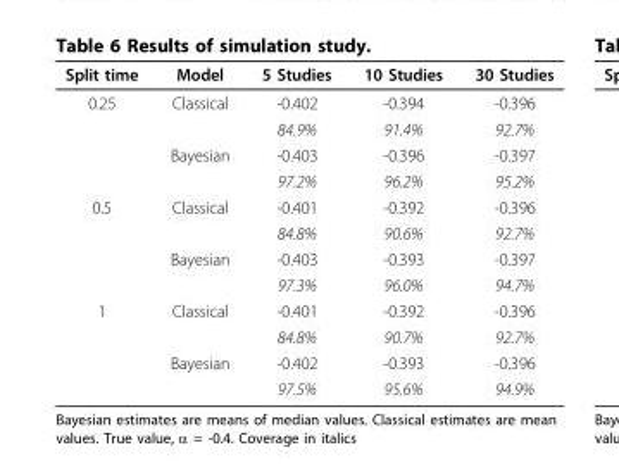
<table><thead><tr><td>Split time</td><td>Model</td><td>5 Studies</td><td>10 Studies</td><td>30 Studies</td></tr></thead><tbody><tr><td rowspan="4">0.25</td><td>Classical</td><td>-0.402</td><td>-0.394</td><td>-0.396</td></tr><tr><td></td><td>84.9%</td><td>91.4%</td><td>92.7%</td></tr><tr><td>Bayesian</td><td>-0.403</td><td>-0.396</td><td>-0.397</td></tr><tr><td></td><td>97.2%</td><td>96.2%</td><td>95.2%</td></tr><tr><td rowspan="4">0.5</td><td>Classical</td><td>-0.401</td><td>-0.392</td><td>-0.396</td></tr><tr><td></td><td>84.8%</td><td>90.6%</td><td>92.7%</td></tr><tr><td>Bayesian</td><td>-0.403</td><td>-0.393</td><td>-0.397</td></tr><tr><td></td><td>97.3%</td><td>96.0%</td><td>94.7%</td></tr><tr><td rowspan="4">1</td><td>Classical</td><td>-0.401</td><td>-0.392</td><td>-0.396</td></tr><tr><td></td><td>84.8%</td><td>90.7%</td><td>92.7%</td></tr><tr><td>Bayesian</td><td>-0.402</td><td>-0.393</td><td>-0.396</td></tr><tr><td></td><td>97.5%</td><td>95.6%</td><td>94.9%</td></tr></tbody></table>